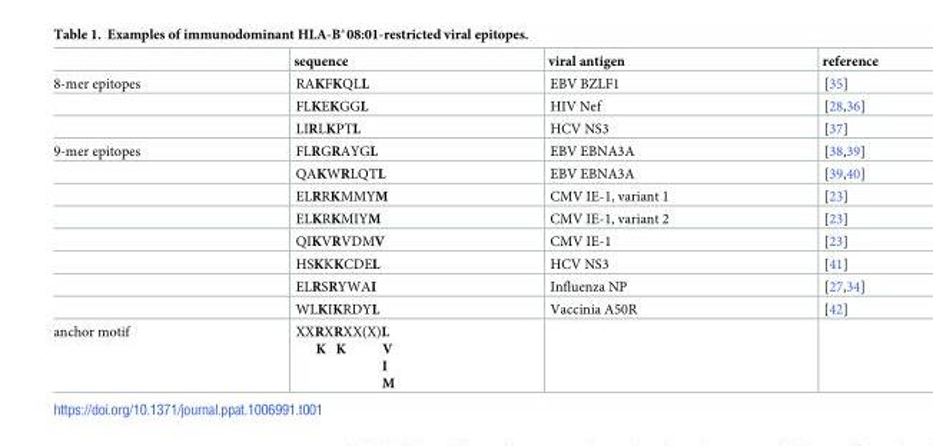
<table><thead><tr><td></td><td>sequence</td><td>viral antigen</td><td>reference</td></tr></thead><tbody><tr><td rowspan="3">8-mer epitopes</td><td>RAKFKQLL</td><td>EBV BZLF1</td><td>[35]</td></tr><tr><td>FLKEKGGL</td><td>HIV Nef</td><td>[28,36]</td></tr><tr><td>LIRLKPTL</td><td>HCV NS3</td><td>[37]</td></tr><tr><td rowspan="8">9-mer epitopes</td><td>FLRGRAYGL</td><td>EBV EBNA3A</td><td>[38,39]</td></tr><tr><td>QAKWRLQTL</td><td>EBV EBNA3A</td><td>[39,40]</td></tr><tr><td>ELRRKMMYM</td><td>CMV IE-1, variant 1</td><td>[23]</td></tr><tr><td>ELKRKMIYM</td><td>CMV IE-1, variant 2</td><td>[23]</td></tr><tr><td>QIKVRVDMV</td><td>CMV IE-1</td><td>[23]</td></tr><tr><td>HSKKKCDEL</td><td>HCV NS3</td><td>[41]</td></tr><tr><td>ELRSRYWAI</td><td>Influenza NP</td><td>[27,34]</td></tr><tr><td>WLKIKRDYL</td><td>Vaccinia A50R</td><td>[42]</td></tr><tr><td>anchor motif</td><td>XXRXRXX(X)L K K V I M</td><td></td><td></td></tr></tbody></table>